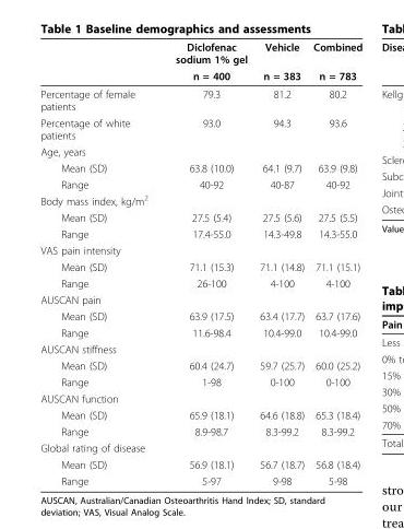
<table><thead><tr><td rowspan="2"></td><td rowspan="2">Diclofenac sodium 1% gel n = 400</td><td rowspan="2">Vehicle n = 383</td><td rowspan="2">Combined n = 783</td></tr><tr></tr></thead><tbody><tr><td>Percentage of female patients</td><td>79.3</td><td>81.2</td><td>80.2</td></tr><tr><td>Percentage of white patients</td><td>93.0</td><td>94.3</td><td>93.6</td></tr><tr><td colspan="4">Age, years</td></tr><tr><td>Mean (SD)</td><td>63.8 (10.0)</td><td>64.1 (9.7)</td><td>63.9 (9.8)</td></tr><tr><td>Range</td><td>40-92</td><td>40-87</td><td>40-92</td></tr><tr><td colspan="4">Body mass index, kg/m<sup>2</sup></td></tr><tr><td>Mean (SD)</td><td>27.5 (5.4)</td><td>27.5 (5.6)</td><td>27.5 (5.5)</td></tr><tr><td>Range</td><td>17.4-55.0</td><td>14.3-49.8</td><td>14.3-55.0</td></tr><tr><td colspan="4">VAS pain intensity</td></tr><tr><td>Mean (SD)</td><td>71.1 (15.3)</td><td>71.1 (14.8)</td><td>71.1 (15.1)</td></tr><tr><td>Range</td><td>26-100</td><td>4-100</td><td>4-100</td></tr><tr><td colspan="4">AUSCAN pain</td></tr><tr><td>Mean (SD)</td><td>63.9 (17.5)</td><td>63.4 (17.7)</td><td>63.7 (17.6)</td></tr><tr><td>Range</td><td>11.6-98.4</td><td>10.4-99.0</td><td>10.4-99.0</td></tr><tr><td colspan="4">AUSCAN stiffness</td></tr><tr><td>Mean (SD)</td><td>60.4 (24.7)</td><td>59.7 (25.7)</td><td>60.0 (25.2)</td></tr><tr><td>Range</td><td>1-98</td><td>0-100</td><td>0-100</td></tr><tr><td colspan="4">AUSCAN function</td></tr><tr><td>Mean (SD)</td><td>65.9 (18.1)</td><td>64.6 (18.8)</td><td>65.3 (18.4)</td></tr><tr><td>Range</td><td>8.9-98.7</td><td>8.3-99.2</td><td>8.3-99.2</td></tr><tr><td colspan="4">Global rating of disease</td></tr><tr><td>Mean (SD)</td><td>56.9 (18.1)</td><td>56.7 (18.7)</td><td>56.8 (18.4)</td></tr><tr><td>Range</td><td>5-97</td><td>9-98</td><td>5-98</td></tr></tbody></table>